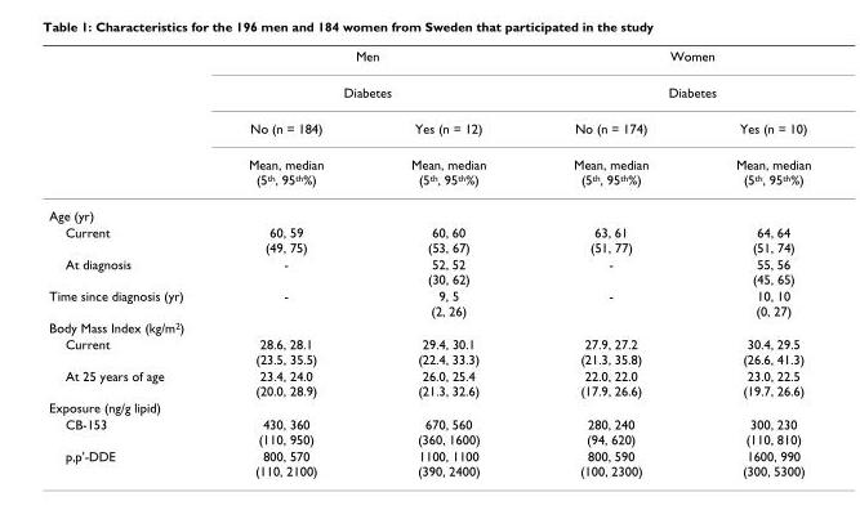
<table><thead><tr><td rowspan="4"></td><td rowspan="2" colspan="2">Men Diabetes</td><td rowspan="2" colspan="2">Women Diabetes</td></tr><tr></tr><tr><td rowspan="2">No (n = 184) Mean, median (5<sup>th</sup>, 95<sup>th</sup>%)</td><td rowspan="2">Yes (n = 12) Mean, median (5<sup>th</sup>, 95<sup>th</sup>%)</td><td rowspan="2">No (n = 174) Mean, median (5<sup>th</sup>, 95<sup>th</sup>%)</td><td rowspan="2">Yes (n = 10) Mean, median (5<sup>th</sup>, 95<sup>th</sup>%)</td></tr><tr></tr></thead><tbody><tr><td colspan="5">Age (yr)</td></tr><tr><td>Current</td><td>60, 59 (49, 75)</td><td>60, 60 (53, 67)</td><td>63, 61 (51, 77)</td><td>64, 64 (51, 74)</td></tr><tr><td>At diagnosis</td><td>-</td><td>52, 52 (30, 62)</td><td>-</td><td>55, 56 (45, 65)</td></tr><tr><td>Time since diagnosis (yr)</td><td>-</td><td>9, 5 (2, 26)</td><td>-</td><td>10, 10 (0, 27)</td></tr><tr><td colspan="5">Body Mass Index (kg/m<sup>2</sup>)</td></tr><tr><td>Current</td><td>28.6, 28.1 (23.5, 35.5)</td><td>29.4, 30.1 (22.4, 33.3)</td><td>27.9, 27.2 (21.3, 35.8)</td><td>30.4, 29.5 (26.6, 41.3)</td></tr><tr><td>At 25 years of age</td><td>23.4, 24.0 (20.0, 28.9)</td><td>26.0, 25.4 (21.3, 32.6)</td><td>22.0, 22.0 (17.9, 26.6)</td><td>23.0, 22.5 (19.7, 26.6)</td></tr><tr><td colspan="5">Exposure (ng/g lipid)</td></tr><tr><td>CB-153</td><td>430, 360 (110, 950)</td><td>670, 560 (360, 1600)</td><td>280, 240 (94, 620)</td><td>300, 230 (110, 810)</td></tr><tr><td>p,p&#x27;-DDE</td><td>800, 570 (110, 2100)</td><td>1100, 1100 (390, 2400)</td><td>800, 590 (100, 2300)</td><td>1600, 990 (300, 5300)</td></tr></tbody></table>